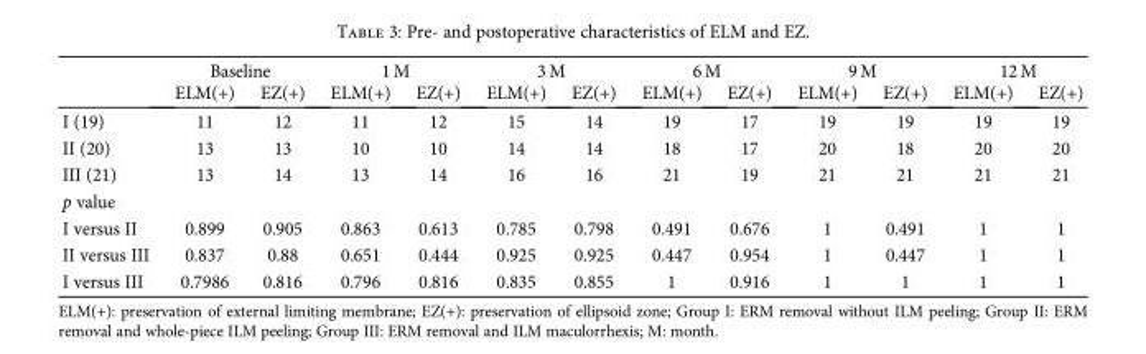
<table><thead><tr><td rowspan="2"></td><td colspan="2">Baseline</td><td colspan="2">1 M</td><td colspan="2">3 M</td><td colspan="2">6 M</td><td colspan="2">9 M</td><td colspan="2">12 M</td></tr><tr><td>ELM(+)</td><td>EZ(+)</td><td>ELM(+)</td><td>EZ(+)</td><td>ELM(+)</td><td>EZ(+)</td><td>ELM(+)</td><td>EZ(+)</td><td>ELM(+)</td><td>EZ(+)</td><td>ELM(+)</td><td>EZ(+)</td></tr></thead><tbody><tr><td>I (19)</td><td>11</td><td>12</td><td>11</td><td>12</td><td>15</td><td>14</td><td>19</td><td>17</td><td>19</td><td>19</td><td>19</td><td>19</td></tr><tr><td>II (20)</td><td>13</td><td>13</td><td>10</td><td>10</td><td>14</td><td>14</td><td>18</td><td>17</td><td>20</td><td>18</td><td>20</td><td>20</td></tr><tr><td>III (21)</td><td>13</td><td>14</td><td>13</td><td>14</td><td>16</td><td>16</td><td>21</td><td>19</td><td>21</td><td>21</td><td>21</td><td>21</td></tr><tr><td colspan="13">p value</td></tr><tr><td>I versus II</td><td>0.899</td><td>0.905</td><td>0.863</td><td>0.613</td><td>0.785</td><td>0.798</td><td>0.491</td><td>0.676</td><td>1</td><td>0.491</td><td>1</td><td>1</td></tr><tr><td>II versus III</td><td>0.837</td><td>0.88</td><td>0.651</td><td>0.444</td><td>0.925</td><td>0.925</td><td>0.447</td><td>0.954</td><td>1</td><td>0.447</td><td>1</td><td>1</td></tr><tr><td>I versus III</td><td>0.7986</td><td>0.816</td><td>0.796</td><td>0.816</td><td>0.835</td><td>0.855</td><td>1</td><td>0.916</td><td>1</td><td>1</td><td>1</td><td>1</td></tr></tbody></table>